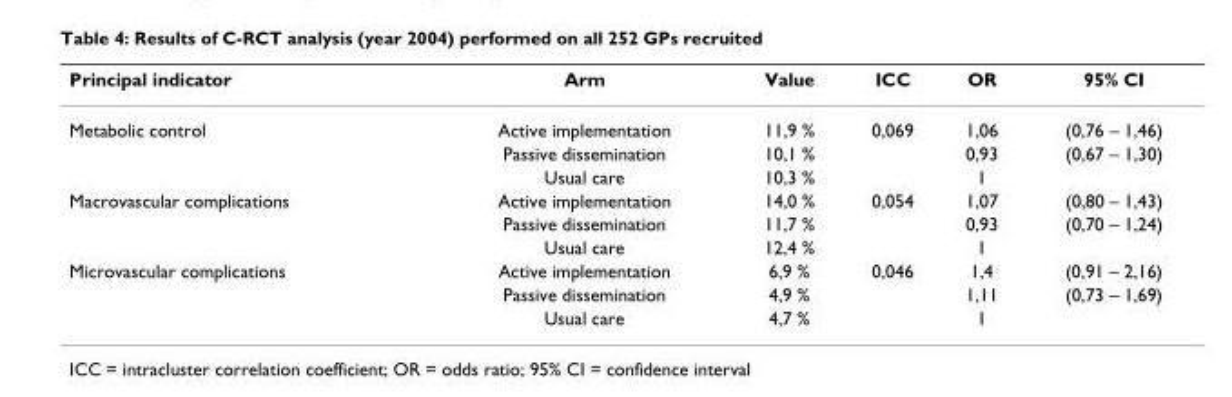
<table><thead><tr><td>Principal indicator</td><td>Arm</td><td>Value</td><td>ICC</td><td>OR</td><td>95% CI</td></tr></thead><tbody><tr><td rowspan="3">Metabolic control</td><td>Active implementation</td><td>11,9 %</td><td>0,069</td><td>1,06</td><td>(0,76 – 1,46)</td></tr><tr><td>Passive dissemination</td><td>10,1 %</td><td></td><td>0,93</td><td>(0,67 – 1,30)</td></tr><tr><td>Usual care</td><td>10,3 %</td><td></td><td>1</td><td></td></tr><tr><td rowspan="3">Macrovascular complications</td><td>Active implementation</td><td>14,0 %</td><td>0,054</td><td>1,07</td><td>(0,80 – 1,43)</td></tr><tr><td>Passive dissemination</td><td>11,7 %</td><td></td><td>0,93</td><td>(0,70 – 1,24)</td></tr><tr><td>Usual care</td><td>12,4 %</td><td></td><td>1</td><td></td></tr><tr><td rowspan="3">Microvascular complications</td><td>Active implementation</td><td>6,9 %</td><td>0,046</td><td>1,4</td><td>(0,91 – 2,16)</td></tr><tr><td>Passive dissemination</td><td>4,9 %</td><td></td><td>1,11</td><td>(0,73 – 1,69)</td></tr><tr><td>Usual care</td><td>4,7 %</td><td></td><td>1</td><td></td></tr></tbody></table>